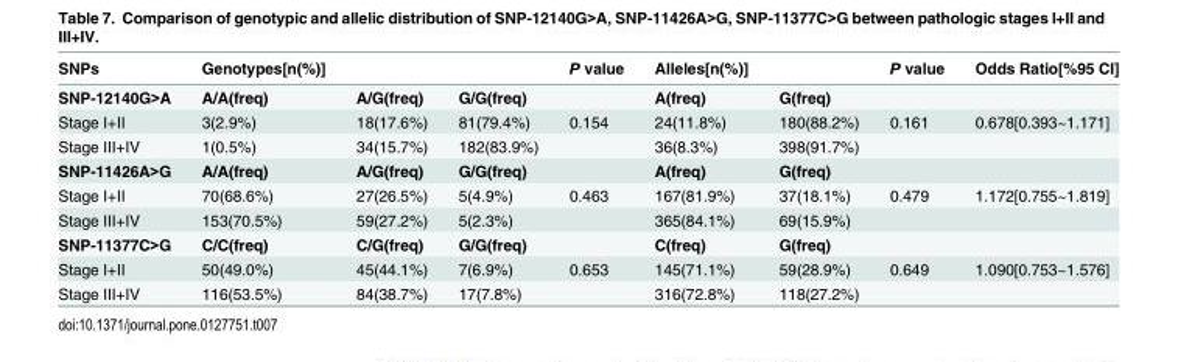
<table><thead><tr><td>SNPs</td><td>Genotypes[n(%)]</td><td></td><td></td><td>P value</td><td>Alleles[n(%)]</td><td></td><td>P value</td><td>Odds Ratio[%95 CI]</td></tr></thead><tbody><tr><td>SNP-12140G&gt;A</td><td>A/A(freq)</td><td>A/G(freq)</td><td>G/G(freq)</td><td></td><td>A(freq)</td><td>G(freq)</td><td></td><td></td></tr><tr><td>Stage I+II</td><td>3(2.9%)</td><td>18(17.6%)</td><td>81(79.4%)</td><td>0.154</td><td>24(11.8%)</td><td>180(88.2%)</td><td>0.161</td><td>0.678[0.393~1.171]</td></tr><tr><td>Stage III+IV</td><td>1(0.5%)</td><td>34(15.7%)</td><td>182(83.9%)</td><td></td><td>36(8.3%)</td><td>398(91.7%)</td><td></td><td></td></tr><tr><td>SNP-11426A&gt;G</td><td>A/A(freq)</td><td>A/G(freq)</td><td>G/G(freq)</td><td></td><td>A(freq)</td><td>G(freq)</td><td></td><td></td></tr><tr><td>Stage I+II</td><td>70(68.6%)</td><td>27(26.5%)</td><td>5(4.9%)</td><td>0.463</td><td>167(81.9%)</td><td>37(18.1%)</td><td>0.479</td><td>1.172[0.755~1.819]</td></tr><tr><td>Stage III+IV</td><td>153(70.5%)</td><td>59(27.2%)</td><td>5(2.3%)</td><td></td><td>365(84.1%)</td><td>69(15.9%)</td><td></td><td></td></tr><tr><td>SNP-11377C&gt;G</td><td>C/C(freq)</td><td>C/G(freq)</td><td>G/G(freq)</td><td></td><td>C(freq)</td><td>G(freq)</td><td></td><td></td></tr><tr><td>Stage I+II</td><td>50(49.0%)</td><td>45(44.1%)</td><td>7(6.9%)</td><td>0.653</td><td>145(71.1%)</td><td>59(28.9%)</td><td>0.649</td><td>1.090[0.753~1.576]</td></tr><tr><td>Stage III+IV</td><td>116(53.5%)</td><td>84(38.7%)</td><td>17(7.8%)</td><td></td><td>316(72.8%)</td><td>118(27.2%)</td><td></td><td></td></tr></tbody></table>